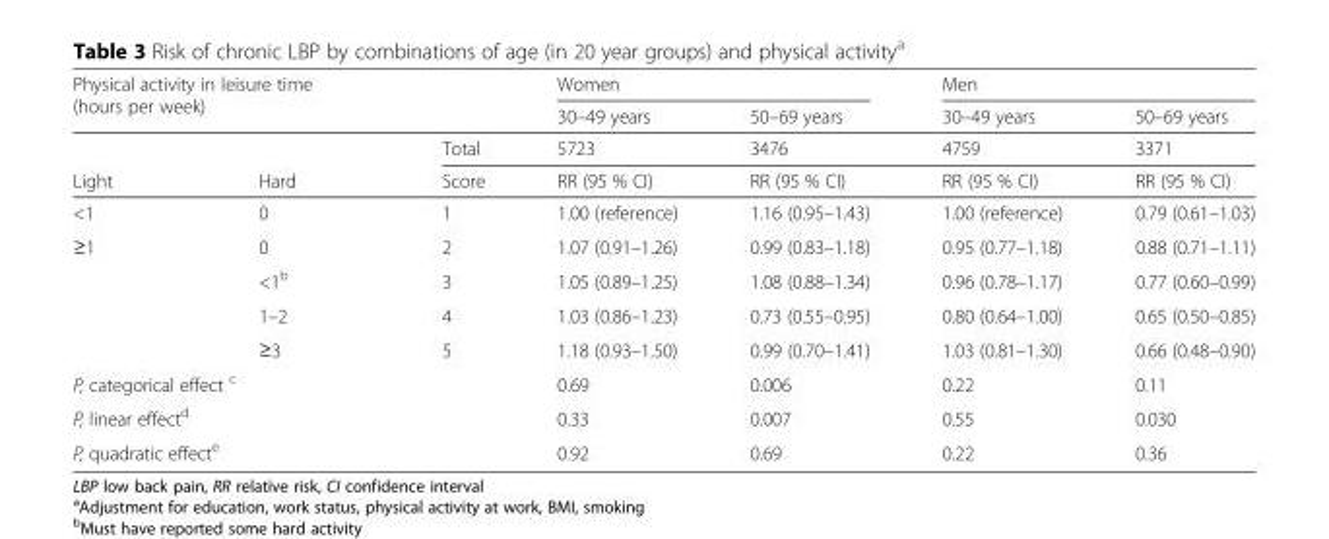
<table><thead><tr><td rowspan="2" colspan="2">Physical activity in leisure time (hours per week)</td><td rowspan="4">Total Score</td><td colspan="2">Women</td><td colspan="2">Men</td></tr><tr><td rowspan="3">30–49 years 5723 RR (95 % CI)</td><td rowspan="3">50–69 years 3476 RR (95 % CI)</td><td rowspan="3">30–49 years 4759 RR (95 % CI)</td><td rowspan="3">50–69 years 3371 RR (95 % CI)</td></tr><tr><td rowspan="2">Light</td><td rowspan="2">Hard</td></tr><tr></tr></thead><tbody><tr><td>&lt;1</td><td>0</td><td>1</td><td>1.00 (reference)</td><td>1.16 (0.95–1.43)</td><td>1.00 (reference)</td><td>0.79 (0.61–1.03)</td></tr><tr><td rowspan="4">≥1</td><td>0</td><td>2</td><td>1.07 (0.91–1.26)</td><td>0.99 (0.83–1.18)</td><td>0.95 (0.77–1.18)</td><td>0.88 (0.71–1.11)</td></tr><tr><td>&lt;1<sup>b</sup></td><td>3</td><td>1.05 (0.89–1.25)</td><td>1.08 (0.88–1.34)</td><td>0.96 (0.78–1.17)</td><td>0.77 (0.60–0.99)</td></tr><tr><td>1–2</td><td>4</td><td>1.03 (0.86–1.23)</td><td>0.73 (0.55–0.95)</td><td>0.80 (0.64–1.00)</td><td>0.65 (0.50–0.85)</td></tr><tr><td>≥3</td><td>5</td><td>1.18 (0.93–1.50)</td><td>0.99 (0.70–1.41)</td><td>1.03 (0.81–1.30)</td><td>0.66 (0.48–0.90)</td></tr><tr><td colspan="3">P, categorical effect <sup>c</sup></td><td>0.69</td><td>0.006</td><td>0.22</td><td>0.11</td></tr><tr><td colspan="3">P, linear effect<sup>d</sup></td><td>0.33</td><td>0.007</td><td>0.55</td><td>0.030</td></tr><tr><td colspan="3">P, quadratic effect<sup>e</sup></td><td>0.92</td><td>0.69</td><td>0.22</td><td>0.36</td></tr></tbody></table>